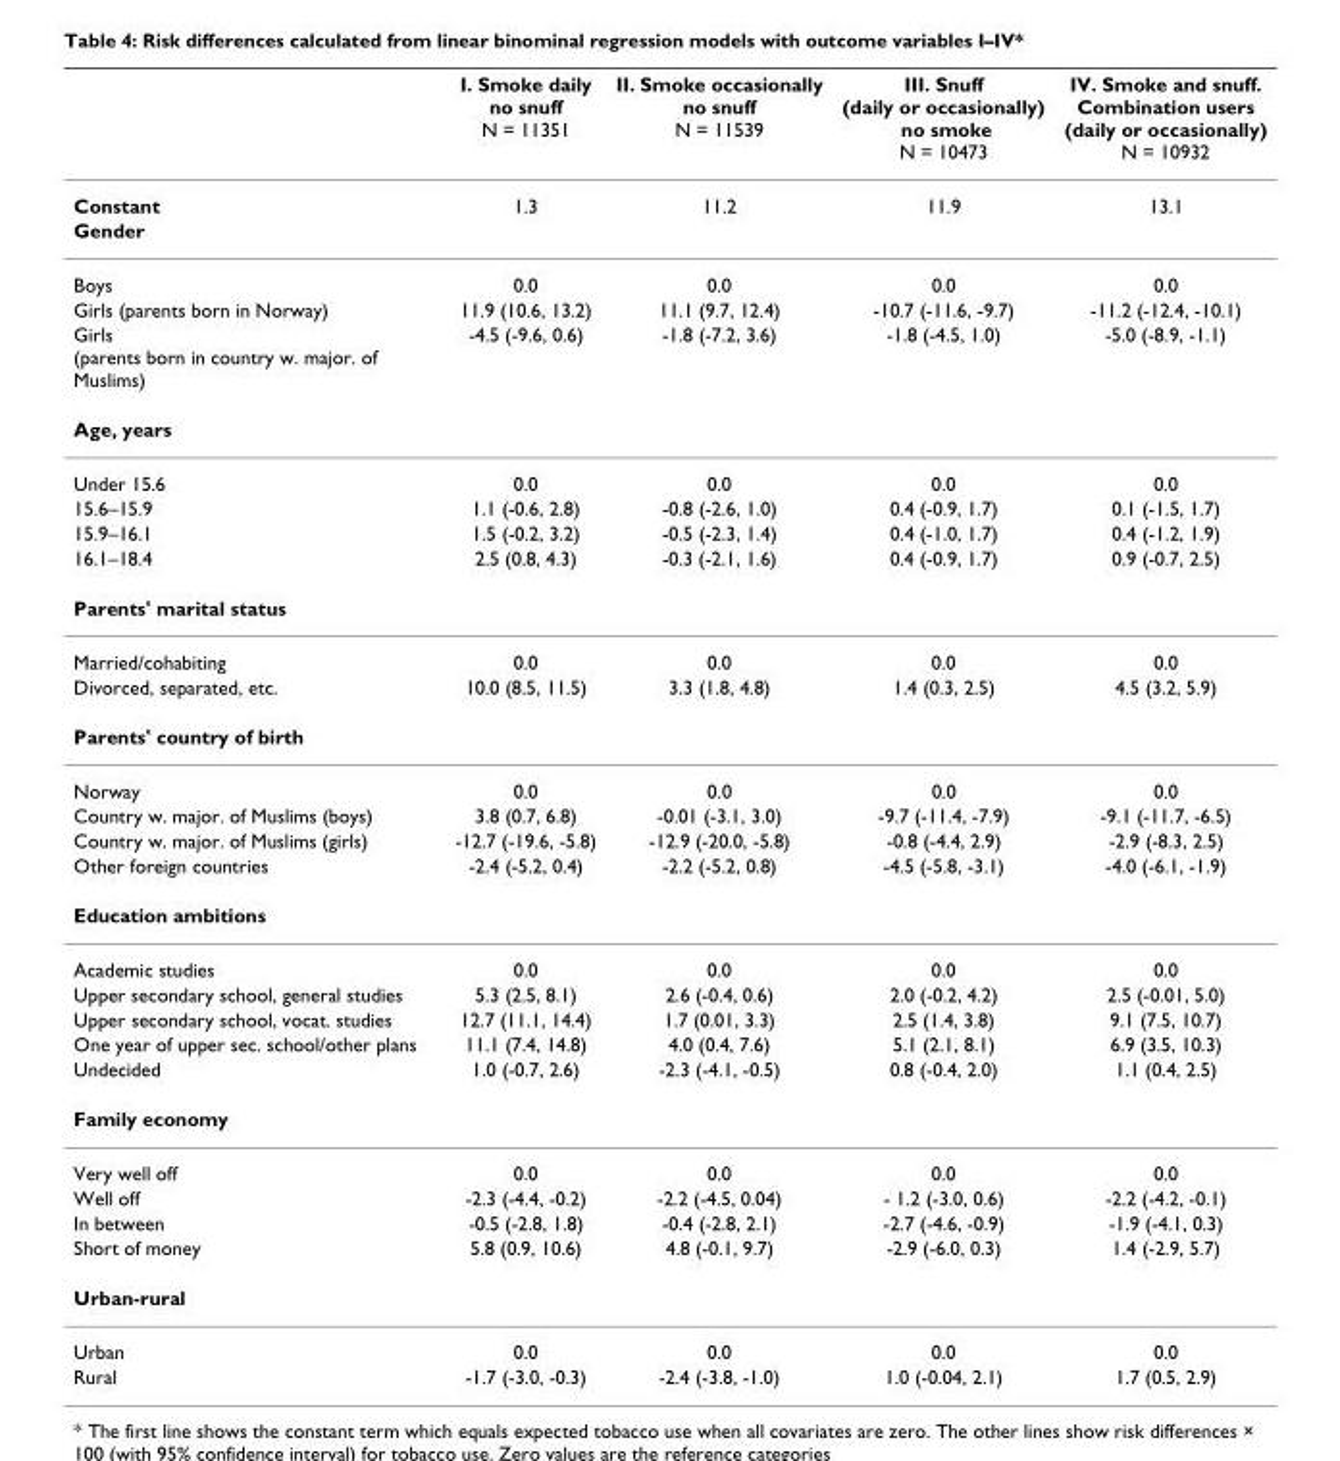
<table><thead><tr><td></td><td>I. Smoke daily no snuff N = 11351</td><td>II. Smoke occasionally no snuff N = 11539</td><td>III. Snuff (daily or occasionally) no smoke N = 10473</td><td>IV. Smoke and snuff. Combination users (daily or occasionally) N = 10932</td></tr></thead><tbody><tr><td>Constant</td><td>1.3</td><td>11.2</td><td>11.9</td><td>13.1</td></tr><tr><td colspan="5">Gender</td></tr><tr><td>Boys</td><td>0.0</td><td>0.0</td><td>0.0</td><td>0.0</td></tr><tr><td>Girls (parents born in Norway)</td><td>11.9 (10.6, 13.2)</td><td>11.1 (9.7, 12.4)</td><td>-10.7 (-11.6, -9.7)</td><td>-11.2 (-12.4, -10.1)</td></tr><tr><td>Girls (parents born in country w. major. of Muslims)</td><td>-4.5 (-9.6, 0.6)</td><td>-1.8 (-7.2, 3.6)</td><td>-1.8 (-4.5, 1.0)</td><td>-5.0 (-8.9, -1.1)</td></tr><tr><td colspan="5">Age, years</td></tr><tr><td>Under 15.6</td><td>0.0</td><td>0.0</td><td>0.0</td><td>0.0</td></tr><tr><td>15.6–15.9</td><td>1.1 (-0.6, 2.8)</td><td>-0.8 (-2.6, 1.0)</td><td>0.4 (-0.9, 1.7)</td><td>0.1 (-1.5, 1.7)</td></tr><tr><td>15.9–16.1</td><td>1.5 (-0.2, 3.2)</td><td>-0.5 (-2.3, 1.4)</td><td>0.4 (-1.0, 1.7)</td><td>0.4 (-1.2, 1.9)</td></tr><tr><td>16.1–18.4</td><td>2.5 (0.8, 4.3)</td><td>-0.3 (-2.1, 1.6)</td><td>0.4 (-0.9, 1.7)</td><td>0.9 (-0.7, 2.5)</td></tr><tr><td colspan="5">Parents&#x27; marital status</td></tr><tr><td>Married/cohabiting</td><td>0.0</td><td>0.0</td><td>0.0</td><td>0.0</td></tr><tr><td>Divorced, separated, etc.</td><td>10.0 (8.5, 11.5)</td><td>3.3 (1.8, 4.8)</td><td>1.4 (0.3, 2.5)</td><td>4.5 (3.2, 5.9)</td></tr><tr><td colspan="5">Parents&#x27; country of birth</td></tr><tr><td>Norway</td><td>0.0</td><td>0.0</td><td>0.0</td><td>0.0</td></tr><tr><td>Country w. major. of Muslims (boys)</td><td>3.8 (0.7, 6.8)</td><td>-0.01 (-3.1, 3.0)</td><td>-9.7 (-11.4, -7.9)</td><td>-9.1 (-11.7, -6.5)</td></tr><tr><td>Country w. major. of Muslims (girls)</td><td>-12.7 (-19.6, -5.8)</td><td>-12.9 (-20.0, -5.8)</td><td>-0.8 (-4.4, 2.9)</td><td>-2.9 (-8.3, 2.5)</td></tr><tr><td>Other foreign countries</td><td>-2.4 (-5.2, 0.4)</td><td>-2.2 (-5.2, 0.8)</td><td>-4.5 (-5.8, -3.1)</td><td>-4.0 (-6.1, -1.9)</td></tr><tr><td colspan="5">Education ambitions</td></tr><tr><td>Academic studies</td><td>0.0</td><td>0.0</td><td>0.0</td><td>0.0</td></tr><tr><td>Upper secondary school, general studies</td><td>5.3 (2.5, 8.1)</td><td>2.6 (-0.4, 0.6)</td><td>2.0 (-0.2, 4.2)</td><td>2.5 (-0.01, 5.0)</td></tr><tr><td>Upper secondary school, vocat. studies</td><td>12.7 (11.1, 14.4)</td><td>1.7 (0.01, 3.3)</td><td>2.5 (1.4, 3.8)</td><td>9.1 (7.5, 10.7)</td></tr><tr><td>One year of upper sec. school/other plans</td><td>11.1 (7.4, 14.8)</td><td>4.0 (0.4, 7.6)</td><td>5.1 (2.1, 8.1)</td><td>6.9 (3.5, 10.3)</td></tr><tr><td>Undecided</td><td>1.0 (-0.7, 2.6)</td><td>-2.3 (-4.1, -0.5)</td><td>0.8 (-0.4, 2.0)</td><td>1.1 (0.4, 2.5)</td></tr><tr><td colspan="5">Family economy</td></tr><tr><td>Very well off</td><td>0.0</td><td>0.0</td><td>0.0</td><td>0.0</td></tr><tr><td>Well off</td><td>-2.3 (-4.4, -0.2)</td><td>-2.2 (-4.5, 0.04)</td><td>- 1.2 (-3.0, 0.6)</td><td>-2.2 (-4.2, -0.1)</td></tr><tr><td>In between</td><td>-0.5 (-2.8, 1.8)</td><td>-0.4 (-2.8, 2.1)</td><td>-2.7 (-4.6, -0.9)</td><td>-1.9 (-4.1, 0.3)</td></tr><tr><td>Short of money</td><td>5.8 (0.9, 10.6)</td><td>4.8 (-0.1, 9.7)</td><td>-2.9 (-6.0, 0.3)</td><td>1.4 (-2.9, 5.7)</td></tr><tr><td colspan="5">Urban-rural</td></tr><tr><td>Urban</td><td>0.0</td><td>0.0</td><td>0.0</td><td>0.0</td></tr><tr><td>Rural</td><td>-1.7 (-3.0, -0.3)</td><td>-2.4 (-3.8, -1.0)</td><td>1.0 (-0.04, 2.1)</td><td>1.7 (0.5, 2.9)</td></tr></tbody></table>